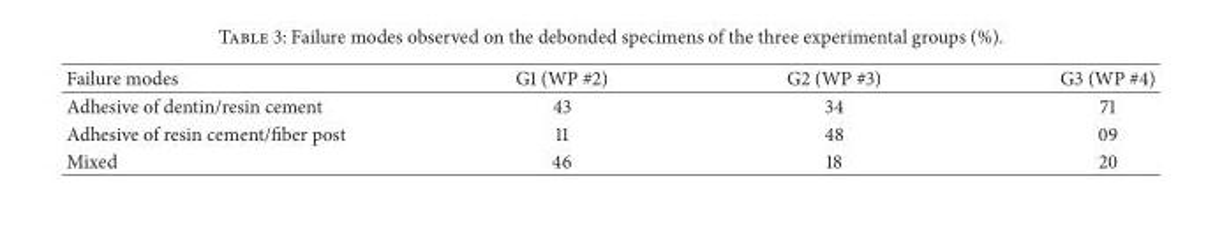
<table><thead><tr><td>Failure modes</td><td>G1 (WP #2)</td><td>G2 (WP #3)</td><td>G3 (WP #4)</td></tr></thead><tbody><tr><td>Adhesive of dentin/resin cement</td><td>43</td><td>34</td><td>71</td></tr><tr><td>Adhesive of resin cement/fiber post</td><td>11</td><td>48</td><td>09</td></tr><tr><td>Mixed</td><td>46</td><td>18</td><td>20</td></tr></tbody></table>